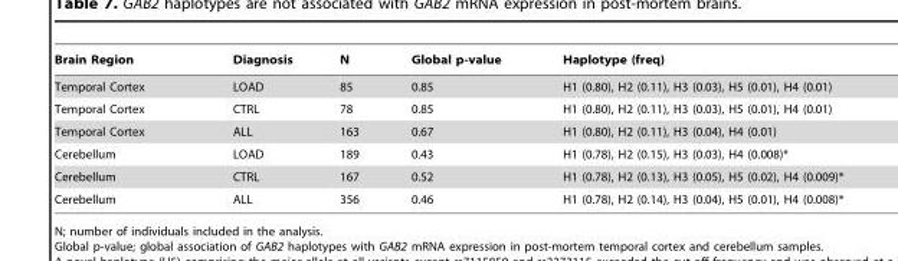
<table><thead><tr><td>Brain Region</td><td>Diagnosis</td><td>N</td><td>Global p-value</td><td>Haplotype (freq)</td></tr></thead><tbody><tr><td>Temporal Cortex</td><td>LOAD</td><td>85</td><td>0.85</td><td>H1 (0.80), H2 (0.11), H3 (0.03), H5 (0.01), H4 (0.01)</td></tr><tr><td>Temporal Cortex</td><td>CTRL</td><td>78</td><td>0.85</td><td>H1 (0.80), H2 (0.11), H3 (0.03), H5 (0.01), H4 (0.01)</td></tr><tr><td>Temporal Cortex</td><td>ALL</td><td>163</td><td>0.67</td><td>H1 (0.80), H2 (0.11), H3 (0.04), H4 (0.01)</td></tr><tr><td>Cerebellum</td><td>LOAD</td><td>189</td><td>0.43</td><td>H1 (0.78), H2 (0.15), H3 (0.03), H4 (0.008)*</td></tr><tr><td>Cerebellum</td><td>CTRL</td><td>167</td><td>0.52</td><td>H1 (0.78), H2 (0.13), H3 (0.05), H5 (0.02), H4 (0.009)*</td></tr><tr><td>Cerebellum</td><td>ALL</td><td>356</td><td>0.46</td><td>H1 (0.78), H2 (0.14), H3 (0.04), H5 (0.01), H4 (0.008)*</td></tr></tbody></table>